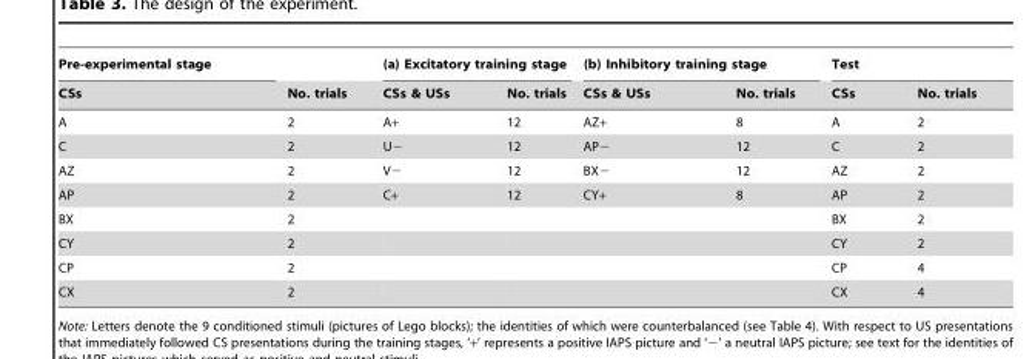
<table><thead><tr><td rowspan="2">Pre-experimental stage CSs</td><td rowspan="2">No. trials</td><td colspan="2">(a) Excitatory training stage</td><td colspan="2">(b) Inhibitory training stage</td><td colspan="2">Test</td></tr><tr><td>CSs &amp; USs</td><td>No. trials</td><td>CSs &amp; USs</td><td>No. trials</td><td>CSs</td><td>No. trials</td></tr></thead><tbody><tr><td>A</td><td>2</td><td>A+</td><td>12</td><td>AZ+</td><td>8</td><td>A</td><td>2</td></tr><tr><td>C</td><td>2</td><td>U−</td><td>12</td><td>AP−</td><td>12</td><td>C</td><td>2</td></tr><tr><td>AZ</td><td>2</td><td>V−</td><td>12</td><td>BX−</td><td>12</td><td>AZ</td><td>2</td></tr><tr><td>AP</td><td>2</td><td>C+</td><td>12</td><td>CY+</td><td>8</td><td>AP</td><td>2</td></tr><tr><td>BX</td><td>2</td><td></td><td></td><td></td><td></td><td>BX</td><td>2</td></tr><tr><td>CY</td><td>2</td><td></td><td></td><td></td><td></td><td>CY</td><td>2</td></tr><tr><td>CP</td><td>2</td><td></td><td></td><td></td><td></td><td>CP</td><td>4</td></tr><tr><td>CX</td><td>2</td><td></td><td></td><td></td><td></td><td>CX</td><td>4</td></tr></tbody></table>